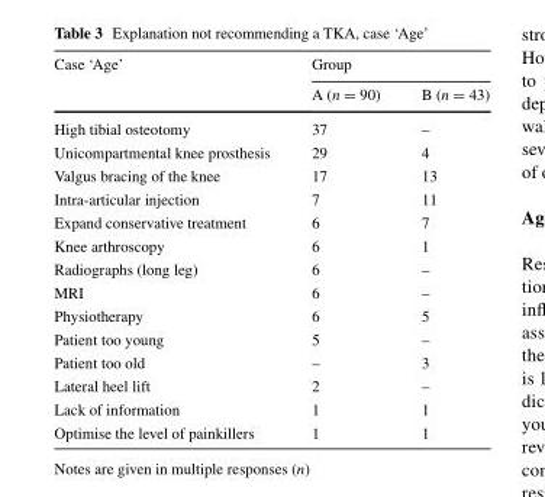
<table><thead><tr><td rowspan="2">Case ‘Age’</td><td colspan="2">Group</td></tr><tr><td>A (n = 90)</td><td>B (n = 43)</td></tr></thead><tbody><tr><td>High tibial osteotomy</td><td>37</td><td>–</td></tr><tr><td>Unicompartmental knee prosthesis</td><td>29</td><td>4</td></tr><tr><td>Valgus bracing of the knee</td><td>17</td><td>13</td></tr><tr><td>Intra-articular injection</td><td>7</td><td>11</td></tr><tr><td>Expand conservative treatment</td><td>6</td><td>7</td></tr><tr><td>Knee arthroscopy</td><td>6</td><td>1</td></tr><tr><td>Radiographs (long leg)</td><td>6</td><td>–</td></tr><tr><td>MRI</td><td>6</td><td>–</td></tr><tr><td>Physiotherapy</td><td>6</td><td>5</td></tr><tr><td>Patient too young</td><td>5</td><td>–</td></tr><tr><td>Patient too old</td><td>–</td><td>3</td></tr><tr><td>Lateral heel lift</td><td>2</td><td>–</td></tr><tr><td>Lack of information</td><td>1</td><td>1</td></tr><tr><td>Optimise the level of painkillers</td><td>1</td><td>1</td></tr></tbody></table>